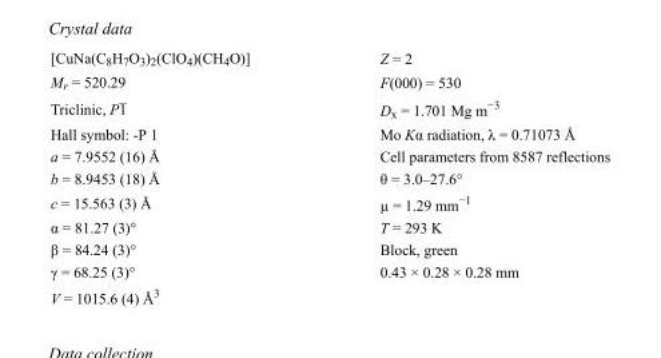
<table><tbody><tr><td>[CuNa(C<sub>8</sub>H<sub>7</sub>O<sub>3</sub>)<sub>2</sub>(ClO<sub>4</sub>)(CH<sub>4</sub>O)]</td><td>Z = 2</td></tr><tr><td>M<sub>r</sub> = 520.29</td><td>F(000) = 530</td></tr><tr><td>Triclinic, P1</td><td>D<sub>x</sub> = 1.701 Mg m<sup>−3</sup></td></tr><tr><td>Hall symbol: -P 1</td><td>Mo Kα radiation, λ = 0.71073 Å</td></tr><tr><td>a = 7.9552 (16) Å</td><td>Cell parameters from 8587 reflections</td></tr><tr><td>b = 8.9453 (18) Å</td><td>θ = 3.0–27.6°</td></tr><tr><td>c = 15.563 (3) Å</td><td>µ = 1.29 mm<sup>−1</sup></td></tr><tr><td>α = 81.27 (3)°</td><td>T = 293 K</td></tr><tr><td>β = 84.24 (3)°</td><td>Block, green</td></tr><tr><td>γ = 68.25 (3)°</td><td>0.43 × 0.28 × 0.28 mm</td></tr><tr><td>V = 1015.6 (4) Å<sup>3</sup></td><td></td></tr></tbody></table>